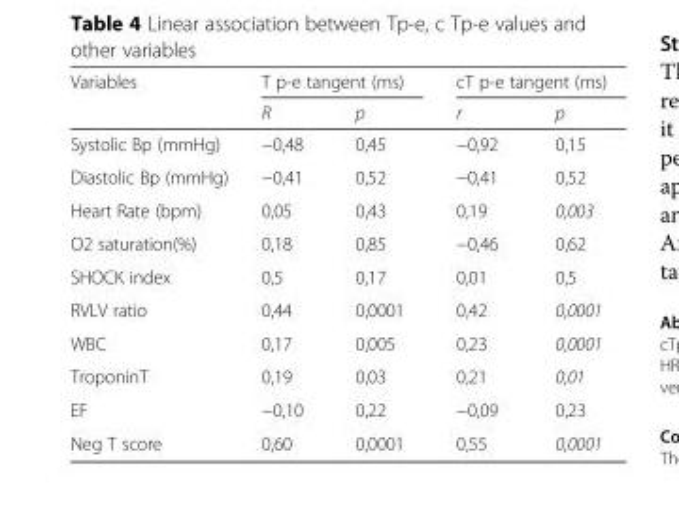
<table><thead><tr><td rowspan="2">Variables</td><td colspan="2">T p-e tangent (ms)</td><td colspan="2">cT p-e tangent (ms)</td></tr><tr><td>R</td><td>p</td><td>r</td><td>p</td></tr></thead><tbody><tr><td>Systolic Bp (mmHg)</td><td>−0,48</td><td>0,45</td><td>−0,92</td><td>0,15</td></tr><tr><td>Diastolic Bp (mmHg)</td><td>−0,41</td><td>0,52</td><td>−0,41</td><td>0,52</td></tr><tr><td>Heart Rate (bpm)</td><td>0,05</td><td>0,43</td><td>0,19</td><td>0,003</td></tr><tr><td>O2 saturation(%)</td><td>0,18</td><td>0,85</td><td>−0,46</td><td>0,62</td></tr><tr><td>SHOCK index</td><td>0,5</td><td>0,17</td><td>0,01</td><td>0,5</td></tr><tr><td>RVLV ratio</td><td>0,44</td><td>0,0001</td><td>0,42</td><td>0,0001</td></tr><tr><td>WBC</td><td>0,17</td><td>0,005</td><td>0,23</td><td>0,0001</td></tr><tr><td>TroponinT</td><td>0,19</td><td>0,03</td><td>0,21</td><td>0,01</td></tr><tr><td>EF</td><td>−0,10</td><td>0,22</td><td>−0,09</td><td>0,23</td></tr><tr><td>Neg T score</td><td>0,60</td><td>0,0001</td><td>0,55</td><td>0,0001</td></tr></tbody></table>